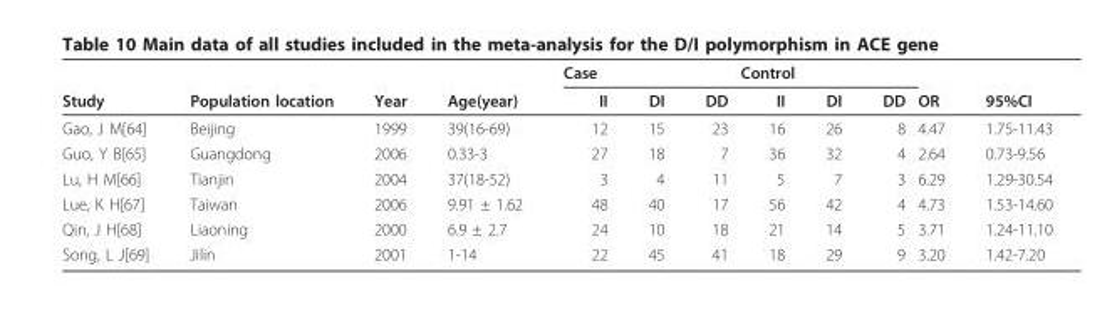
<table><thead><tr><td rowspan="2">Study</td><td rowspan="2">Population location</td><td rowspan="2">Year</td><td rowspan="2">Age(year)</td><td colspan="3">Case</td><td colspan="3">Control</td><td rowspan="2">OR</td><td rowspan="2">95%CI</td></tr><tr><td>II</td><td>DI</td><td>DD</td><td>II</td><td>DI</td><td>DD</td></tr></thead><tbody><tr><td>Gao, J M[64]</td><td>Beijing</td><td>1999</td><td>39(16-69)</td><td>12</td><td>15</td><td>23</td><td>16</td><td>26</td><td>8</td><td>4.47</td><td>1.75-11.43</td></tr><tr><td>Guo, Y B[65]</td><td>Guangdong</td><td>2006</td><td>0.33-3</td><td>27</td><td>18</td><td>7</td><td>36</td><td>32</td><td>4</td><td>2.64</td><td>0.73-9.56</td></tr><tr><td>Lu, H M[66]</td><td>Tianjin</td><td>2004</td><td>37(18-52)</td><td>3</td><td>4</td><td>11</td><td>5</td><td>7</td><td>3</td><td>6.29</td><td>1.29-30.54</td></tr><tr><td>Lue, K H[67]</td><td>Taiwan</td><td>2006</td><td>9.91 ± 1.62</td><td>48</td><td>40</td><td>17</td><td>56</td><td>42</td><td>4</td><td>4.73</td><td>1.53-14.60</td></tr><tr><td>Qin, J H[68]</td><td>Liaoning</td><td>2000</td><td>6.9 ± 2.7</td><td>24</td><td>10</td><td>18</td><td>21</td><td>14</td><td>5</td><td>3.71</td><td>1.24-11.10</td></tr><tr><td>Song, L J[69]</td><td>Jilin</td><td>2001</td><td>1-14</td><td>22</td><td>45</td><td>41</td><td>18</td><td>29</td><td>9</td><td>3.20</td><td>1.42-7.20</td></tr></tbody></table>